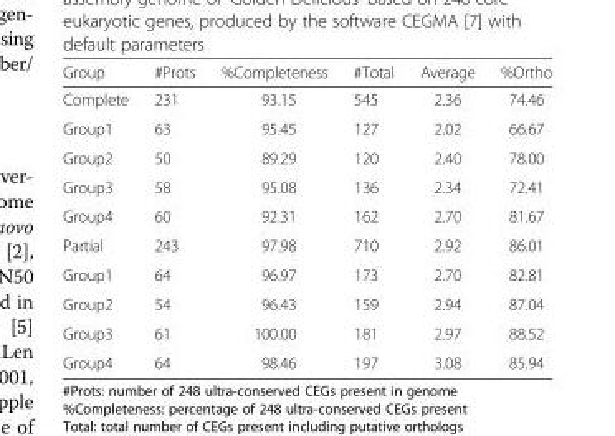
<table><thead><tr><td>Group</td><td>#Prots</td><td>%Completeness</td><td>#Total</td><td>Average</td><td>%Ortho</td></tr></thead><tbody><tr><td>Complete</td><td>231</td><td>93.15</td><td>545</td><td>2.36</td><td>74.46</td></tr><tr><td>Group1</td><td>63</td><td>95.45</td><td>127</td><td>2.02</td><td>66.67</td></tr><tr><td>Group2</td><td>50</td><td>89.29</td><td>120</td><td>2.40</td><td>78.00</td></tr><tr><td>Group3</td><td>58</td><td>95.08</td><td>136</td><td>2.34</td><td>72.41</td></tr><tr><td>Group4</td><td>60</td><td>92.31</td><td>162</td><td>2.70</td><td>81.67</td></tr><tr><td>Partial</td><td>243</td><td>97.98</td><td>710</td><td>2.92</td><td>86.01</td></tr><tr><td>Group1</td><td>64</td><td>96.97</td><td>173</td><td>2.70</td><td>82.81</td></tr><tr><td>Group2</td><td>54</td><td>96.43</td><td>159</td><td>2.94</td><td>87.04</td></tr><tr><td>Group3</td><td>61</td><td>100.00</td><td>181</td><td>2.97</td><td>88.52</td></tr><tr><td>Group4</td><td>64</td><td>98.46</td><td>197</td><td>3.08</td><td>85.94</td></tr></tbody></table>